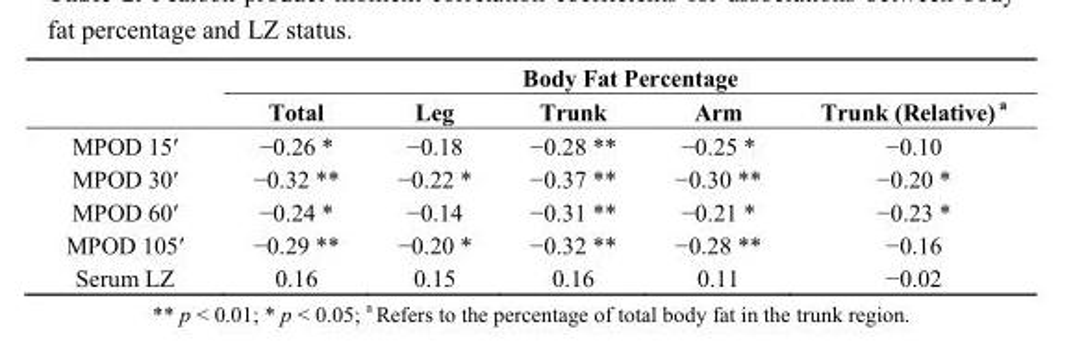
<table><thead><tr><td rowspan="2"></td><td colspan="5">Body Fat Percentage</td></tr><tr><td>Total</td><td>Leg</td><td>Trunk</td><td>Arm</td><td>Trunk (Relative) <sup>a</sup></td></tr></thead><tbody><tr><td>MPOD 15′</td><td>−0.26 *</td><td>−0.18</td><td>−0.28 **</td><td>−0.25 *</td><td>−0.10</td></tr><tr><td>MPOD 30′</td><td>−0.32 **</td><td>−0.22 *</td><td>−0.37 **</td><td>−0.30 **</td><td>−0.20 *</td></tr><tr><td>MPOD 60′</td><td>−0.24 *</td><td>−0.14</td><td>−0.31 **</td><td>−0.21 *</td><td>−0.23 *</td></tr><tr><td>MPOD 105′</td><td>−0.29 **</td><td>−0.20 *</td><td>−0.32 **</td><td>−0.28 **</td><td>−0.16</td></tr><tr><td>Serum LZ</td><td>0.16</td><td>0.15</td><td>0.16</td><td>0.11</td><td>−0.02</td></tr></tbody></table>